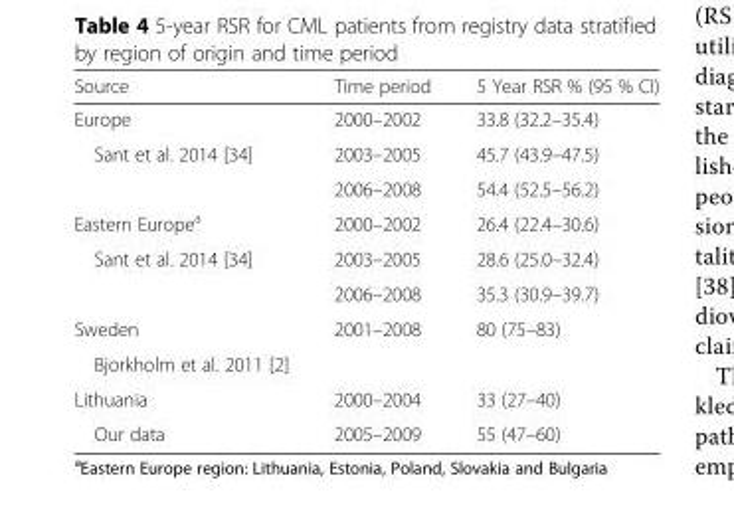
<table><thead><tr><td>Source</td><td>Time period</td><td>5 Year RSR % (95 % CI)</td></tr></thead><tbody><tr><td>Europe</td><td>2000–2002</td><td>33.8 (32.2–35.4)</td></tr><tr><td rowspan="2">Sant et al. 2014 [34]</td><td>2003–2005</td><td>45.7 (43.9–47.5)</td></tr><tr><td>2006–2008</td><td>54.4 (52.5–56.2)</td></tr><tr><td>Eastern Europe<sup>a</sup></td><td>2000–2002</td><td>26.4 (22.4–30.6)</td></tr><tr><td rowspan="2">Sant et al. 2014 [34]</td><td>2003–2005</td><td>28.6 (25.0–32.4)</td></tr><tr><td>2006–2008</td><td>35.3 (30.9–39.7)</td></tr><tr><td>Sweden</td><td rowspan="2">2001–2008</td><td rowspan="2">80 (75–83)</td></tr><tr><td>Bjorkholm et al. 2011 [2]</td></tr><tr><td>Lithuania</td><td>2000–2004</td><td>33 (27–40)</td></tr><tr><td>Our data</td><td>2005–2009</td><td>55 (47–60)</td></tr></tbody></table>